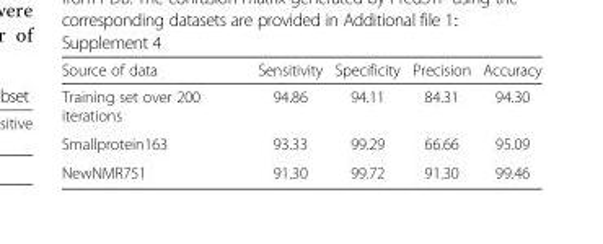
<table><thead><tr><td>Source of data</td><td>Sensitivity</td><td>Specificity</td><td>Precision</td><td>Accuracy</td></tr></thead><tbody><tr><td>Training set over 200 iterations</td><td>94.86</td><td>94.11</td><td>84.31</td><td>94.30</td></tr><tr><td>Smallprotein163</td><td>93.33</td><td>99.29</td><td>66.66</td><td>95.09</td></tr><tr><td>NewNMR751</td><td>91.30</td><td>99.72</td><td>91.30</td><td>99.46</td></tr></tbody></table>